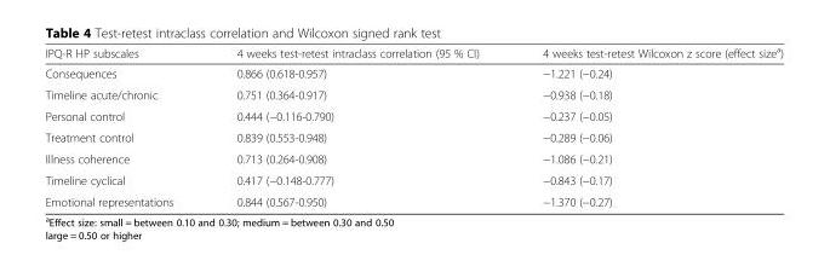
<table><thead><tr><td>IPQ-R HP subscales</td><td>4 weeks test-retest intraclass correlation (95 % CI)</td><td>4 weeks test-retest Wilcoxon z score (effect size<sup>a</sup>)</td></tr></thead><tbody><tr><td>Consequences</td><td>0.866 (0.618-0.957)</td><td>−1.221 (−0.24)</td></tr><tr><td>Timeline acute/chronic</td><td>0.751 (0.364-0.917)</td><td>−0.938 (−0.18)</td></tr><tr><td>Personal control</td><td>0.444 (−0.116-0.790)</td><td>−0.237 (−0.05)</td></tr><tr><td>Treatment control</td><td>0.839 (0.553-0.948)</td><td>−0.289 (−0.06)</td></tr><tr><td>Illness coherence</td><td>0.713 (0.264-0.908)</td><td>−1.086 (−0.21)</td></tr><tr><td>Timeline cyclical</td><td>0.417 (−0.148-0.777)</td><td>−0.843 (−0.17)</td></tr><tr><td>Emotional representations</td><td>0.844 (0.567-0.950)</td><td>−1.370 (−0.27)</td></tr></tbody></table>